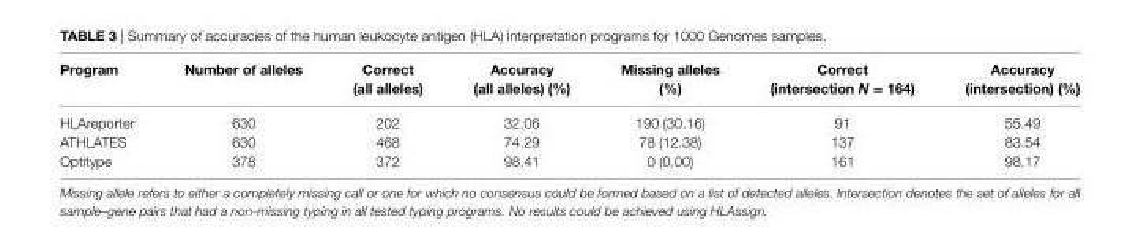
<table><thead><tr><td>Program</td><td>number of alleles</td><td>correct (all alleles)</td><td>accuracy (all alleles) (%)</td><td>Missing alleles (%)</td><td>correct (intersection N = 164)</td><td>accuracy (intersection) (%)</td></tr></thead><tbody><tr><td>HLAreporter</td><td>630</td><td>202</td><td>32.06</td><td>190 (30.16)</td><td>91</td><td>55.49</td></tr><tr><td>ATHLATES</td><td>630</td><td>468</td><td>74.29</td><td>78 (12.38)</td><td>137</td><td>83.54</td></tr><tr><td>Optitype</td><td>378</td><td>372</td><td>98.41</td><td>0 (0.00)</td><td>161</td><td>98.17</td></tr></tbody></table>